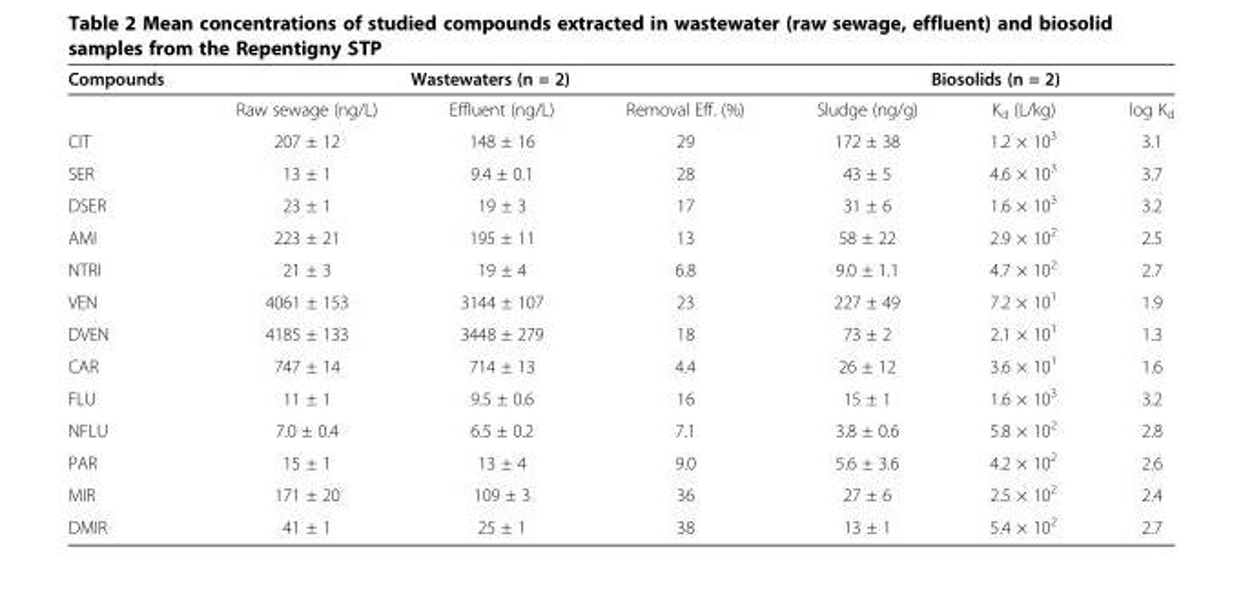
<table><thead><tr><td rowspan="2">Compounds</td><td colspan="3">Wastewaters (n = 2)</td><td colspan="3">Biosolids (n = 2)</td></tr><tr><td>Raw sewage (ng/L)</td><td>Effluent (ng/L)</td><td>Removal Eff. (%)</td><td>Sludge (ng/g)</td><td>K<sub>d</sub> (L/kg)</td><td>log K<sub>d</sub></td></tr></thead><tbody><tr><td>CIT</td><td>207 ± 12</td><td>148 ± 16</td><td>29</td><td>172 ± 38</td><td>1.2 × 10<sup>3</sup></td><td>3.1</td></tr><tr><td>SER</td><td>13 ± 1</td><td>9.4 ± 0.1</td><td>28</td><td>43 ± 5</td><td>4.6 × 10<sup>3</sup></td><td>3.7</td></tr><tr><td>DSER</td><td>23 ± 1</td><td>19 ± 3</td><td>17</td><td>31 ± 6</td><td>1.6 × 10<sup>3</sup></td><td>3.2</td></tr><tr><td>AMI</td><td>223 ± 21</td><td>195 ± 11</td><td>13</td><td>58 ± 22</td><td>2.9 × 10<sup>2</sup></td><td>2.5</td></tr><tr><td>NTRI</td><td>21 ± 3</td><td>19 ± 4</td><td>6.8</td><td>9.0 ± 1.1</td><td>4.7 × 10<sup>2</sup></td><td>2.7</td></tr><tr><td>VEN</td><td>4061 ± 153</td><td>3144 ± 107</td><td>23</td><td>227 ± 49</td><td>7.2 × 10<sup>1</sup></td><td>1.9</td></tr><tr><td>DVEN</td><td>4185 ± 133</td><td>3448 ± 279</td><td>18</td><td>73 ± 2</td><td>2.1 × 10<sup>1</sup></td><td>1.3</td></tr><tr><td>CAR</td><td>747 ± 14</td><td>714 ± 13</td><td>4.4</td><td>26 ± 12</td><td>3.6 × 10<sup>1</sup></td><td>1.6</td></tr><tr><td>FLU</td><td>11 ± 1</td><td>9.5 ± 0.6</td><td>16</td><td>15 ± 1</td><td>1.6 × 10<sup>3</sup></td><td>3.2</td></tr><tr><td>NFLU</td><td>7.0 ± 0.4</td><td>6.5 ± 0.2</td><td>7.1</td><td>3.8 ± 0.6</td><td>5.8 × 10<sup>2</sup></td><td>2.8</td></tr><tr><td>PAR</td><td>15 ± 1</td><td>13 ± 4</td><td>9.0</td><td>5.6 ± 3.6</td><td>4.2 × 10<sup>2</sup></td><td>2.6</td></tr><tr><td>MIR</td><td>171 ± 20</td><td>109 ± 3</td><td>36</td><td>27 ± 6</td><td>2.5 × 10<sup>2</sup></td><td>2.4</td></tr><tr><td>DMIR</td><td>41 ± 1</td><td>25 ± 1</td><td>38</td><td>13 ± 1</td><td>5.4 × 10<sup>2</sup></td><td>2.7</td></tr></tbody></table>